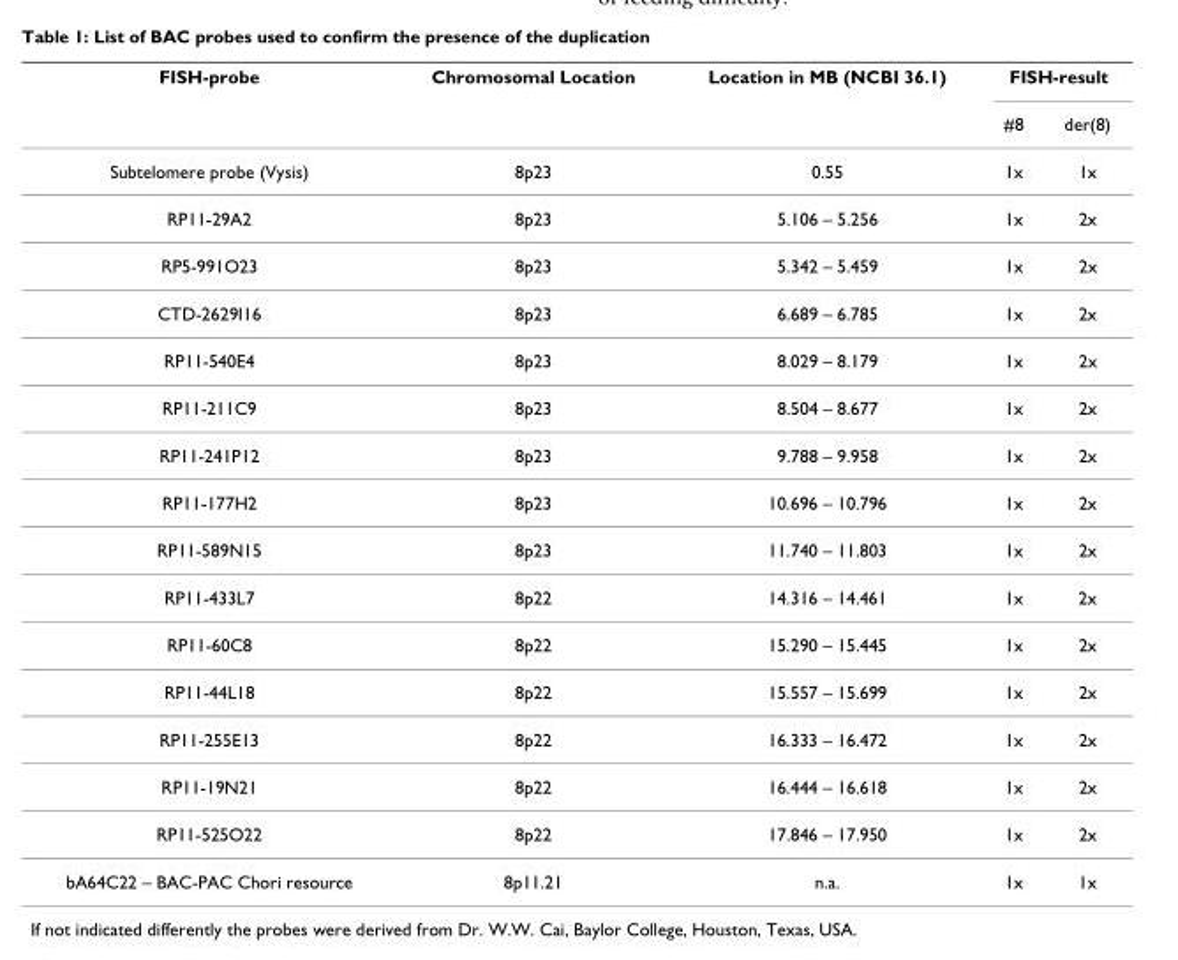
<table><thead><tr><td rowspan="2">FISH-probe</td><td rowspan="2">Chromosomal Location</td><td rowspan="2">Location in MB (NCBI 36.1)</td><td colspan="2">FISH-result</td></tr><tr><td>#8</td><td>der(8)</td></tr></thead><tbody><tr><td>Subtelomere probe (Vysis)</td><td>8p23</td><td>0.55</td><td>1x</td><td>1x</td></tr><tr><td>RP11-29A2</td><td>8p23</td><td>5.106 – 5.256</td><td>1x</td><td>2x</td></tr><tr><td>RP5-991O23</td><td>8p23</td><td>5.342 – 5.459</td><td>1x</td><td>2x</td></tr><tr><td>CTD-2629I16</td><td>8p23</td><td>6.689 – 6.785</td><td>1x</td><td>2x</td></tr><tr><td>RP11-540E4</td><td>8p23</td><td>8.029 – 8.179</td><td>1x</td><td>2x</td></tr><tr><td>RP11-211C9</td><td>8p23</td><td>8.504 – 8.677</td><td>1x</td><td>2x</td></tr><tr><td>RP11-241P12</td><td>8p23</td><td>9.788 – 9.958</td><td>1x</td><td>2x</td></tr><tr><td>RP11-177H2</td><td>8p23</td><td>10.696 – 10.796</td><td>1x</td><td>2x</td></tr><tr><td>RP11-589N15</td><td>8p23</td><td>11.740 – 11.803</td><td>1x</td><td>2x</td></tr><tr><td>RP11-433L7</td><td>8p22</td><td>14.316 – 14.461</td><td>1x</td><td>2x</td></tr><tr><td>RP11-60C8</td><td>8p22</td><td>15.290 – 15.445</td><td>1x</td><td>2x</td></tr><tr><td>RP11-44L18</td><td>8p22</td><td>15.557 – 15.699</td><td>1x</td><td>2x</td></tr><tr><td>RP11-255E13</td><td>8p22</td><td>16.333 – 16.472</td><td>1x</td><td>2x</td></tr><tr><td>RP11-19N21</td><td>8p22</td><td>16.444 – 16.618</td><td>1x</td><td>2x</td></tr><tr><td>RP11-525O22</td><td>8p22</td><td>17.846 – 17.950</td><td>1x</td><td>2x</td></tr><tr><td>bA64C22 – BAC-PAC Chori resource</td><td>8p11.21</td><td>n.a.</td><td>1x</td><td>1x</td></tr></tbody></table>